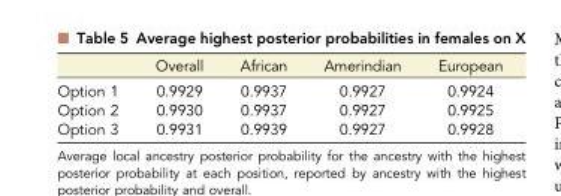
<table><thead><tr><td></td><td>Overall</td><td>African</td><td>Amerindian</td><td>European</td></tr></thead><tbody><tr><td>Option 1</td><td>0.9929</td><td>0.9937</td><td>0.9927</td><td>0.9924</td></tr><tr><td>Option 2</td><td>0.9930</td><td>0.9937</td><td>0.9927</td><td>0.9925</td></tr><tr><td>Option 3</td><td>0.9931</td><td>0.9939</td><td>0.9927</td><td>0.9928</td></tr></tbody></table>